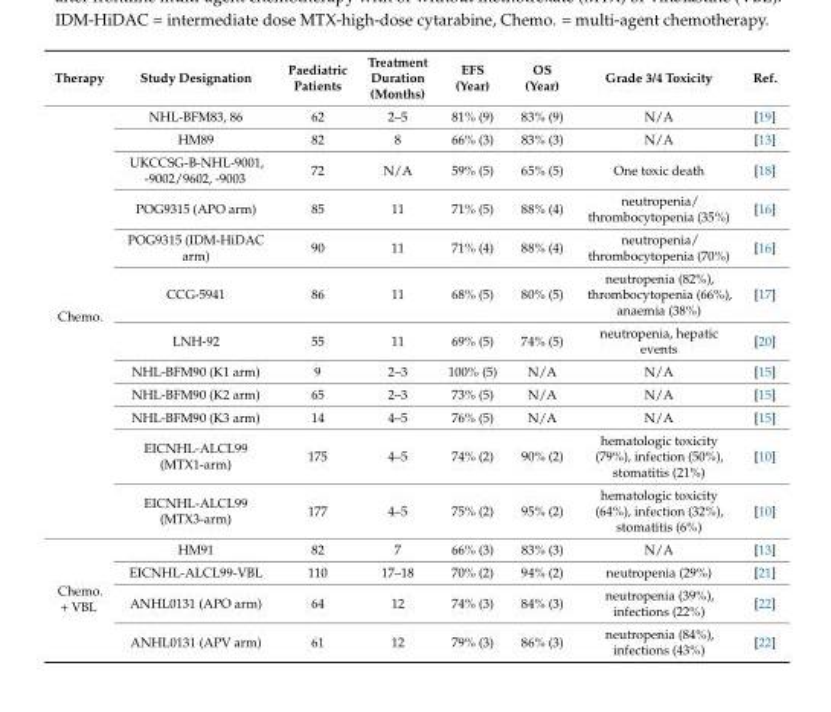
<table><thead><tr><td>Therapy</td><td>Study Designation</td><td>Paediatric Patients</td><td>Treatment Duration (Months)</td><td>EFS (Year)</td><td>OS (Year)</td><td>Grade 3/4 Toxicity</td><td>Ref.</td></tr></thead><tbody><tr><td rowspan="12">Chemo.</td><td>NHL-BFM83, 86</td><td>62</td><td>2–5</td><td>81% (9)</td><td>83% (9)</td><td>N/A</td><td>[19]</td></tr><tr><td>HM89</td><td>82</td><td>8</td><td>66% (3)</td><td>83% (3)</td><td>N/A</td><td>[13]</td></tr><tr><td>UKCCSG-B-NHL-9001, -9002/9602, -9003</td><td>72</td><td>N/A</td><td>59% (5)</td><td>65% (5)</td><td>One toxic death</td><td>[18]</td></tr><tr><td>POG9315 (APO arm)</td><td>85</td><td>11</td><td>71% (5)</td><td>88% (4)</td><td>neutropenia/ thrombocytopenia (35%)</td><td>[16]</td></tr><tr><td>POG9315 (IDM-HiDAC arm)</td><td>90</td><td>11</td><td>71% (4)</td><td>88% (4)</td><td>neutropenia/ thrombocytopenia (70%)</td><td>[16]</td></tr><tr><td>CCG-5941</td><td>86</td><td>11</td><td>68% (5)</td><td>80% (5)</td><td>neutropenia (82%), thrombocytopenia (66%), anaemia (38%)</td><td>[17]</td></tr><tr><td>LNH-92</td><td>55</td><td>11</td><td>69% (5)</td><td>74% (5)</td><td>neutropenia, hepatic events</td><td>[20]</td></tr><tr><td>NHL-BFM90 (K1 arm)</td><td>9</td><td>2–3</td><td>100% (5)</td><td>N/A</td><td>N/A</td><td>[15]</td></tr><tr><td>NHL-BFM90 (K2 arm)</td><td>65</td><td>2–3</td><td>73% (5)</td><td>N/A</td><td>N/A</td><td>[15]</td></tr><tr><td>NHL-BFM90 (K3 arm)</td><td>14</td><td>4–5</td><td>76% (5)</td><td>N/A</td><td>N/A</td><td>[15]</td></tr><tr><td>EICNHL-ALCL99 (MTX1-arm)</td><td>175</td><td>4–5</td><td>74% (2)</td><td>90% (2)</td><td>hematologic toxicity (79%), infection (50%), stomatitis (21%)</td><td>[10]</td></tr><tr><td>EICNHL-ALCL99 (MTX3-arm)</td><td>177</td><td>4–5</td><td>75% (2)</td><td>95% (2)</td><td>hematologic toxicity (64%), infection (32%), stomatitis (6%)</td><td>[10]</td></tr><tr><td rowspan="4">Chemo. + VBL</td><td>HM91</td><td>82</td><td>7</td><td>66% (3)</td><td>83% (3)</td><td>N/A</td><td>[13]</td></tr><tr><td>EICNHL-ALCL99-VBL</td><td>110</td><td>17–18</td><td>70% (2)</td><td>94% (2)</td><td>neutropenia (29%)</td><td>[21]</td></tr><tr><td>ANHL0131 (APO arm)</td><td>64</td><td>12</td><td>74% (3)</td><td>84% (3)</td><td>neutropenia (39%), infections (22%)</td><td>[22]</td></tr><tr><td>ANHL0131 (APV arm)</td><td>61</td><td>12</td><td>79% (3)</td><td>86% (3)</td><td>neutropenia (84%), infections (43%)</td><td>[22]</td></tr></tbody></table>